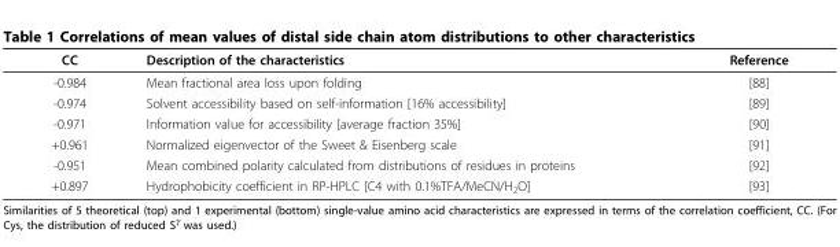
<table><thead><tr><td>CC</td><td>Description of the characteristics</td><td>Reference</td></tr></thead><tbody><tr><td>-0.984</td><td>Mean fractional area loss upon folding</td><td>[88]</td></tr><tr><td>-0.974</td><td>Solvent accessibility based on self-information [16% accessibility]</td><td>[89]</td></tr><tr><td>-0.971</td><td>Information value for accessibility [average fraction 35%]</td><td>[90]</td></tr><tr><td>+0.961</td><td>Normalized eigenvector of the Sweet &amp; Eisenberg scale</td><td>[91]</td></tr><tr><td>-0.951</td><td>Mean combined polarity calculated from distributions of residues in proteins</td><td>[92]</td></tr><tr><td>+0.897</td><td>Hydrophobicity coefficient in RP-HPLC [C4 with 0.1%TFA/MeCN/H<sub>2</sub>O]</td><td>[93]</td></tr></tbody></table>